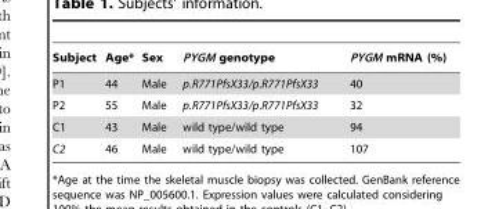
<table><thead><tr><td>Subject</td><td>Age*</td><td>Sex</td><td>PYGM genotype</td><td>PYGM mRNA (%)</td></tr></thead><tbody><tr><td>P1</td><td>44</td><td>Male</td><td>p.R771PfsX33/p.R771PfsX33</td><td>40</td></tr><tr><td>P2</td><td>55</td><td>Male</td><td>p.R771PfsX33/p.R771PfsX33</td><td>32</td></tr><tr><td>C1</td><td>43</td><td>Male</td><td>wild type/wild type</td><td>94</td></tr><tr><td>C2</td><td>46</td><td>Male</td><td>wild type/wild type</td><td>107</td></tr></tbody></table>